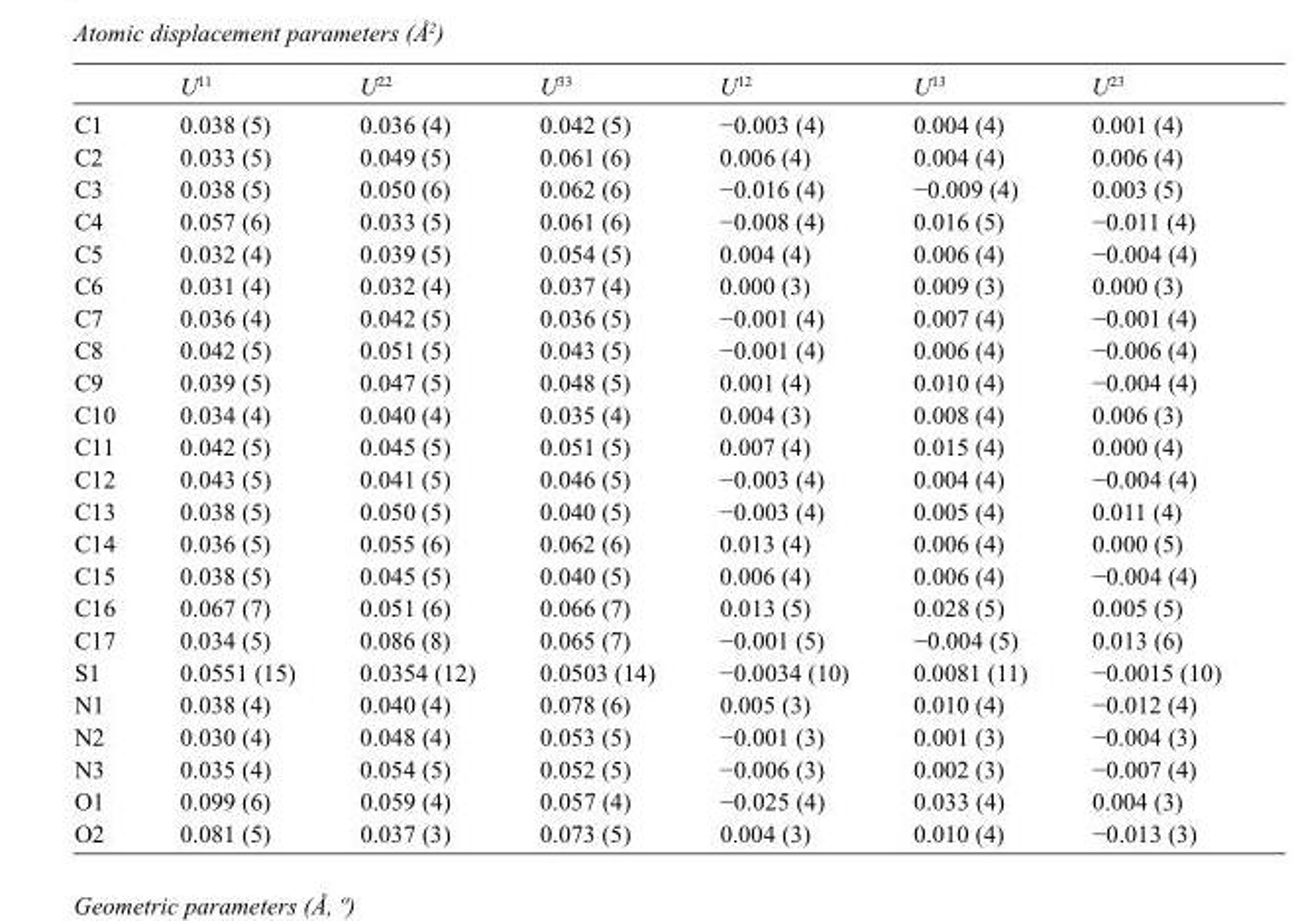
<table><thead><tr><td></td><td>U<sup>11</sup></td><td>U<sup>22</sup></td><td>U<sup>33</sup></td><td>U<sup>12</sup></td><td>U<sup>13</sup></td><td>U<sup>23</sup></td></tr></thead><tbody><tr><td>C1</td><td>0.038 (5)</td><td>0.036 (4)</td><td>0.042 (5)</td><td>−0.003 (4)</td><td>0.004 (4)</td><td>0.001 (4)</td></tr><tr><td>C2</td><td>0.033 (5)</td><td>0.049 (5)</td><td>0.061 (6)</td><td>0.006 (4)</td><td>0.004 (4)</td><td>0.006 (4)</td></tr><tr><td>C3</td><td>0.038 (5)</td><td>0.050 (6)</td><td>0.062 (6)</td><td>−0.016 (4)</td><td>−0.009 (4)</td><td>0.003 (5)</td></tr><tr><td>C4</td><td>0.057 (6)</td><td>0.033 (5)</td><td>0.061 (6)</td><td>−0.008 (4)</td><td>0.016 (5)</td><td>−0.011 (4)</td></tr><tr><td>C5</td><td>0.032 (4)</td><td>0.039 (5)</td><td>0.054 (5)</td><td>0.004 (4)</td><td>0.006 (4)</td><td>−0.004 (4)</td></tr><tr><td>C6</td><td>0.031 (4)</td><td>0.032 (4)</td><td>0.037 (4)</td><td>0.000 (3)</td><td>0.009 (3)</td><td>0.000 (3)</td></tr><tr><td>C7</td><td>0.036 (4)</td><td>0.042 (5)</td><td>0.036 (5)</td><td>−0.001 (4)</td><td>0.007 (4)</td><td>−0.001 (4)</td></tr><tr><td>C8</td><td>0.042 (5)</td><td>0.051 (5)</td><td>0.043 (5)</td><td>−0.001 (4)</td><td>0.006 (4)</td><td>−0.006 (4)</td></tr><tr><td>C9</td><td>0.039 (5)</td><td>0.047 (5)</td><td>0.048 (5)</td><td>0.001 (4)</td><td>0.010 (4)</td><td>−0.004 (4)</td></tr><tr><td>C10</td><td>0.034 (4)</td><td>0.040 (4)</td><td>0.035 (4)</td><td>0.004 (3)</td><td>0.008 (4)</td><td>0.006 (3)</td></tr><tr><td>C11</td><td>0.042 (5)</td><td>0.045 (5)</td><td>0.051 (5)</td><td>0.007 (4)</td><td>0.015 (4)</td><td>0.000 (4)</td></tr><tr><td>C12</td><td>0.043 (5)</td><td>0.041 (5)</td><td>0.046 (5)</td><td>−0.003 (4)</td><td>0.004 (4)</td><td>−0.004 (4)</td></tr><tr><td>C13</td><td>0.038 (5)</td><td>0.050 (5)</td><td>0.040 (5)</td><td>−0.003 (4)</td><td>0.005 (4)</td><td>0.011 (4)</td></tr><tr><td>C14</td><td>0.036 (5)</td><td>0.055 (6)</td><td>0.062 (6)</td><td>0.013 (4)</td><td>0.006 (4)</td><td>0.000 (5)</td></tr><tr><td>C15</td><td>0.038 (5)</td><td>0.045 (5)</td><td>0.040 (5)</td><td>0.006 (4)</td><td>0.006 (4)</td><td>−0.004 (4)</td></tr><tr><td>C16</td><td>0.067 (7)</td><td>0.051 (6)</td><td>0.066 (7)</td><td>0.013 (5)</td><td>0.028 (5)</td><td>0.005 (5)</td></tr><tr><td>C17</td><td>0.034 (5)</td><td>0.086 (8)</td><td>0.065 (7)</td><td>−0.001 (5)</td><td>−0.004 (5)</td><td>0.013 (6)</td></tr><tr><td>S1</td><td>0.0551 (15)</td><td>0.0354 (12)</td><td>0.0503 (14)</td><td>−0.0034 (10)</td><td>0.0081 (11)</td><td>−0.0015 (10)</td></tr><tr><td>N1</td><td>0.038 (4)</td><td>0.040 (4)</td><td>0.078 (6)</td><td>0.005 (3)</td><td>0.010 (4)</td><td>−0.012 (4)</td></tr><tr><td>N2</td><td>0.030 (4)</td><td>0.048 (4)</td><td>0.053 (5)</td><td>−0.001 (3)</td><td>0.001 (3)</td><td>−0.004 (3)</td></tr><tr><td>N3</td><td>0.035 (4)</td><td>0.054 (5)</td><td>0.052 (5)</td><td>−0.006 (3)</td><td>0.002 (3)</td><td>−0.007 (4)</td></tr><tr><td>O1</td><td>0.099 (6)</td><td>0.059 (4)</td><td>0.057 (4)</td><td>−0.025 (4)</td><td>0.033 (4)</td><td>0.004 (3)</td></tr><tr><td>O2</td><td>0.081 (5)</td><td>0.037 (3)</td><td>0.073 (5)</td><td>0.004 (3)</td><td>0.010 (4)</td><td>−0.013 (3)</td></tr></tbody></table>